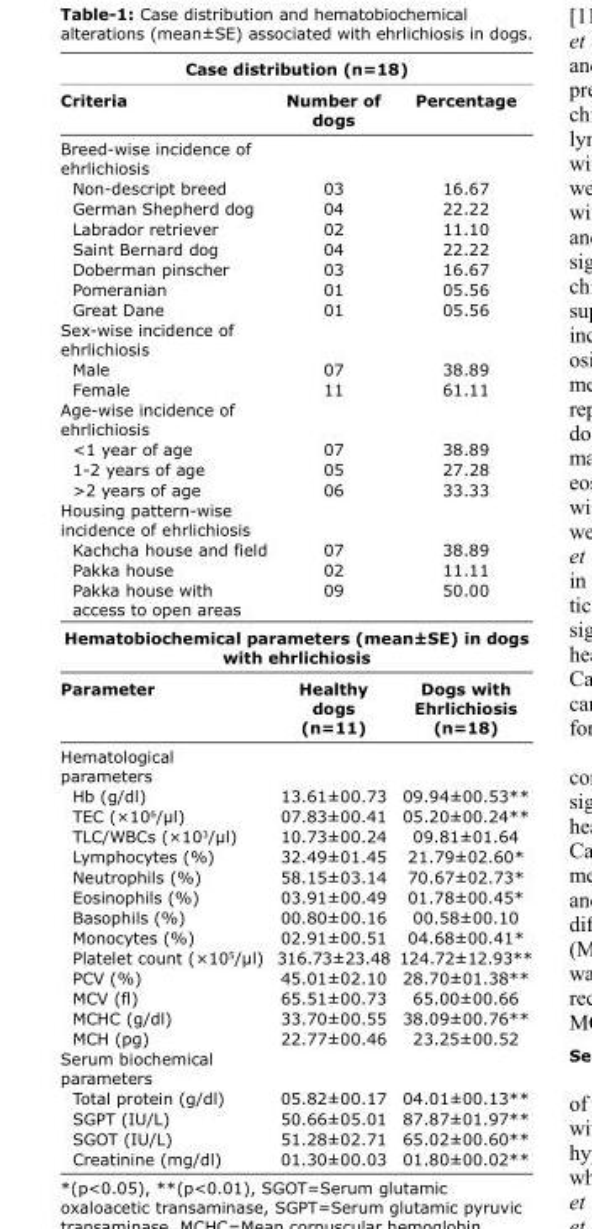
<table><thead><tr><td colspan="3">Case distribution (n=18)</td></tr><tr><td>Criteria</td><td>Number of dogs</td><td>Percentage</td></tr></thead><tbody><tr><td colspan="3">Breed-wise incidence of ehrlichiosis</td></tr><tr><td>Non-descript breed</td><td>03</td><td>16.67</td></tr><tr><td>German Shepherd dog</td><td>04</td><td>22.22</td></tr><tr><td>Labrador retriever</td><td>02</td><td>11.10</td></tr><tr><td>Saint Bernard dog</td><td>04</td><td>22.22</td></tr><tr><td>Doberman pinscher</td><td>03</td><td>16.67</td></tr><tr><td>Pomeranian</td><td>01</td><td>05.56</td></tr><tr><td>Great Dane</td><td>01</td><td>05.56</td></tr><tr><td colspan="3">Sex-wise incidence of ehrlichiosis</td></tr><tr><td>Male</td><td>07</td><td>38.89</td></tr><tr><td>Female</td><td>11</td><td>61.11</td></tr><tr><td colspan="3">Age-wise incidence of ehrlichiosis</td></tr><tr><td>&lt;1 year of age</td><td>07</td><td>38.89</td></tr><tr><td>1-2 years of age</td><td>05</td><td>27.28</td></tr><tr><td>&gt;2 years of age</td><td>06</td><td>33.33</td></tr><tr><td colspan="3">Housing pattern-wise incidence of ehrlichiosis</td></tr><tr><td>Kachcha house and field</td><td>07</td><td>38.89</td></tr><tr><td>Pakka house</td><td>02</td><td>11.11</td></tr><tr><td>Pakka house with access to open areas</td><td>09</td><td>50.00</td></tr><tr><td colspan="3">Hematobiochemical parameters (mean±SE) in dogs with ehrlichiosis</td></tr><tr><td>Parameter</td><td>Healthy dogs (n=11)</td><td>Dogs with Ehrlichiosis (n=18)</td></tr><tr><td colspan="3">Hematological parameters</td></tr><tr><td>Hb (g/dl)</td><td>13.61±00.73</td><td>09.94±00.53**</td></tr><tr><td>TEC (×10<sup>6</sup>/μl)</td><td>07.83±00.41</td><td>05.20±00.24**</td></tr><tr><td>TLC/WBCs (×10<sup>3</sup>/μl)</td><td>10.73±00.24</td><td>09.81±01.64</td></tr><tr><td>Lymphocytes (%)</td><td>32.49±01.45</td><td>21.79±02.60*</td></tr><tr><td>Neutrophils (%)</td><td>58.15±03.14</td><td>70.67±02.73*</td></tr><tr><td>Eosinophils (%)</td><td>03.91±00.49</td><td>01.78±00.45*</td></tr><tr><td>Basophils (%)</td><td>00.80±00.16</td><td>00.58±00.10</td></tr><tr><td>Monocytes (%)</td><td>02.91±00.51</td><td>04.68±00.41*</td></tr><tr><td>Platelet count (×10<sup>5</sup>/μl)</td><td>316.73±23.48</td><td>124.72±12.93**</td></tr><tr><td>PCV (%)</td><td>45.01±02.10</td><td>28.70±01.38**</td></tr><tr><td>MCV (fl)</td><td>65.51±00.73</td><td>65.00±00.66</td></tr><tr><td>MCHC (g/dl)</td><td>33.70±00.55</td><td>38.09±00.76**</td></tr><tr><td>MCH (pg)</td><td>22.77±00.46</td><td>23.25±00.52</td></tr><tr><td colspan="3">Serum biochemical parameters</td></tr><tr><td>Total protein (g/dl)</td><td>05.82±00.17</td><td>04.01±00.13**</td></tr><tr><td>SGPT (IU/L)</td><td>50.66±05.01</td><td>87.87±01.97**</td></tr><tr><td>SGOT (IU/L)</td><td>51.28±02.71</td><td>65.02±00.60**</td></tr><tr><td>Creatinine (mg/dl)</td><td>01.30±00.03</td><td>01.80±00.02**</td></tr></tbody></table>